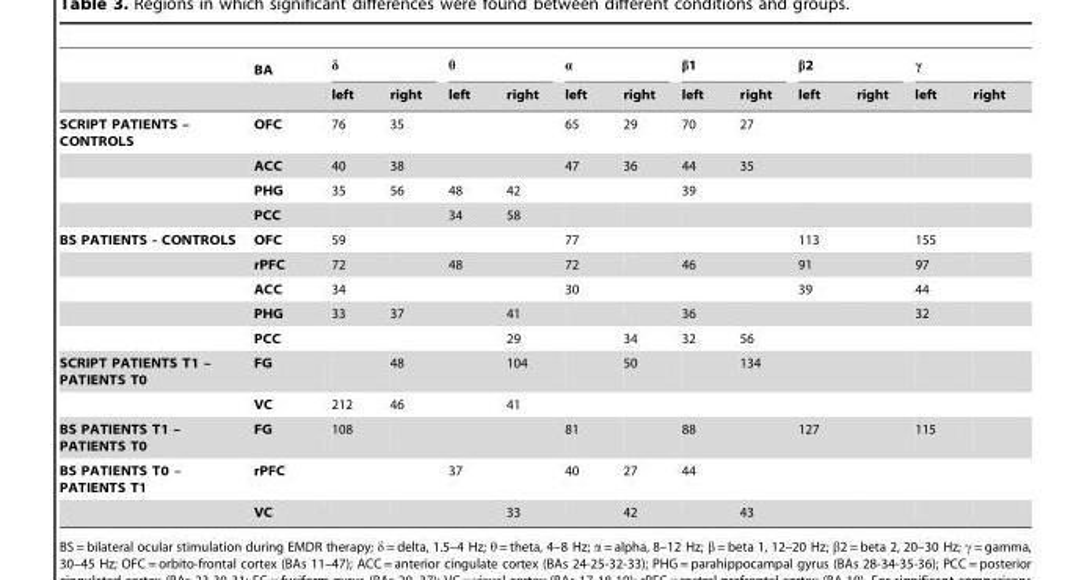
<table><thead><tr><td rowspan="2"></td><td rowspan="2">BA</td><td colspan="2">δ</td><td colspan="2">θ</td><td colspan="2">α</td><td colspan="2">β1</td><td colspan="2">β2</td><td colspan="2">γ</td></tr><tr><td>left</td><td>right</td><td>left</td><td>right</td><td>left</td><td>right</td><td>left</td><td>right</td><td>left</td><td>right</td><td>left</td><td>right</td></tr></thead><tbody><tr><td rowspan="4">SCRIPT PATIENTS – CONTROLS</td><td>OFC</td><td>76</td><td>35</td><td></td><td></td><td>65</td><td>29</td><td>70</td><td>27</td><td></td><td></td><td></td><td></td></tr><tr><td>ACC</td><td>40</td><td>38</td><td></td><td></td><td>47</td><td>36</td><td>44</td><td>35</td><td></td><td></td><td></td><td></td></tr><tr><td>PHG</td><td>35</td><td>56</td><td>48</td><td>42</td><td></td><td></td><td>39</td><td></td><td></td><td></td><td></td><td></td></tr><tr><td>PCC</td><td></td><td></td><td>34</td><td>58</td><td></td><td></td><td></td><td></td><td></td><td></td><td></td><td></td></tr><tr><td rowspan="5">BS PATIENTS - CONTROLS</td><td>OFC</td><td>59</td><td></td><td></td><td></td><td>77</td><td></td><td></td><td></td><td>113</td><td></td><td>155</td><td></td></tr><tr><td>rPFC</td><td>72</td><td></td><td>48</td><td></td><td>72</td><td></td><td>46</td><td></td><td>91</td><td></td><td>97</td><td></td></tr><tr><td>ACC</td><td>34</td><td></td><td></td><td></td><td>30</td><td></td><td></td><td></td><td>39</td><td></td><td>44</td><td></td></tr><tr><td>PHG</td><td>33</td><td>37</td><td></td><td>41</td><td></td><td></td><td>36</td><td></td><td></td><td></td><td>32</td><td></td></tr><tr><td>PCC</td><td></td><td></td><td></td><td>29</td><td></td><td>34</td><td>32</td><td>56</td><td></td><td></td><td></td><td></td></tr><tr><td rowspan="2">SCRIPT PATIENTS T1 – PATIENTS T0</td><td>FG</td><td></td><td>48</td><td></td><td>104</td><td></td><td>50</td><td></td><td>134</td><td></td><td></td><td></td><td></td></tr><tr><td>VC</td><td>212</td><td>46</td><td></td><td>41</td><td></td><td></td><td></td><td></td><td></td><td></td><td></td><td></td></tr><tr><td>BS PATIENTS T1 – PATIENTS T0</td><td>FG</td><td>108</td><td></td><td></td><td></td><td>81</td><td></td><td>88</td><td></td><td>127</td><td></td><td>115</td><td></td></tr><tr><td rowspan="2">BS PATIENTS T0 – PATIENTS T1</td><td>rPFC</td><td></td><td></td><td>37</td><td></td><td>40</td><td>27</td><td>44</td><td></td><td></td><td></td><td></td><td></td></tr><tr><td>VC</td><td></td><td></td><td></td><td>33</td><td></td><td>42</td><td></td><td>43</td><td></td><td></td><td></td><td></td></tr></tbody></table>